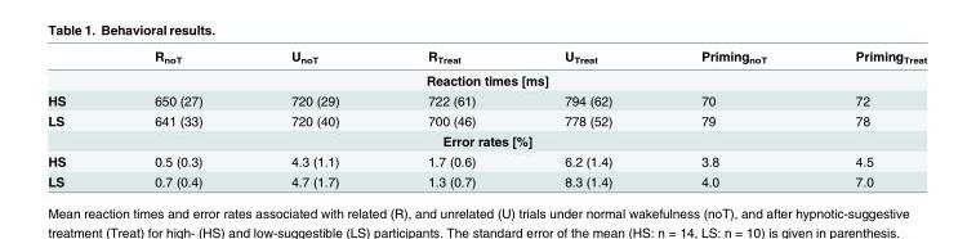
<table><thead><tr><td></td><td>R<sub>noT</sub></td><td>U<sub>noT</sub></td><td>R<sub>Treat</sub></td><td>U<sub>Treat</sub></td><td>Priming<sub>noT</sub></td><td>Priming<sub>Treat</sub></td></tr></thead><tbody><tr><td colspan="7">Reaction times [ms]</td></tr><tr><td>HS</td><td>650 (27)</td><td>720 (29)</td><td>722 (61)</td><td>794 (62)</td><td>70</td><td>72</td></tr><tr><td>LS</td><td>641 (33)</td><td>720 (40)</td><td>700 (46)</td><td>778 (52)</td><td>79</td><td>78</td></tr><tr><td colspan="7">Error rates [%]</td></tr><tr><td>HS</td><td>0.5 (0.3)</td><td>4.3 (1.1)</td><td>1.7 (0.6)</td><td>6.2 (1.4)</td><td>3.8</td><td>4.5</td></tr><tr><td>LS</td><td>0.7 (0.4)</td><td>4.7 (1.7)</td><td>1.3 (0.7)</td><td>8.3 (1.4)</td><td>4.0</td><td>7.0</td></tr></tbody></table>